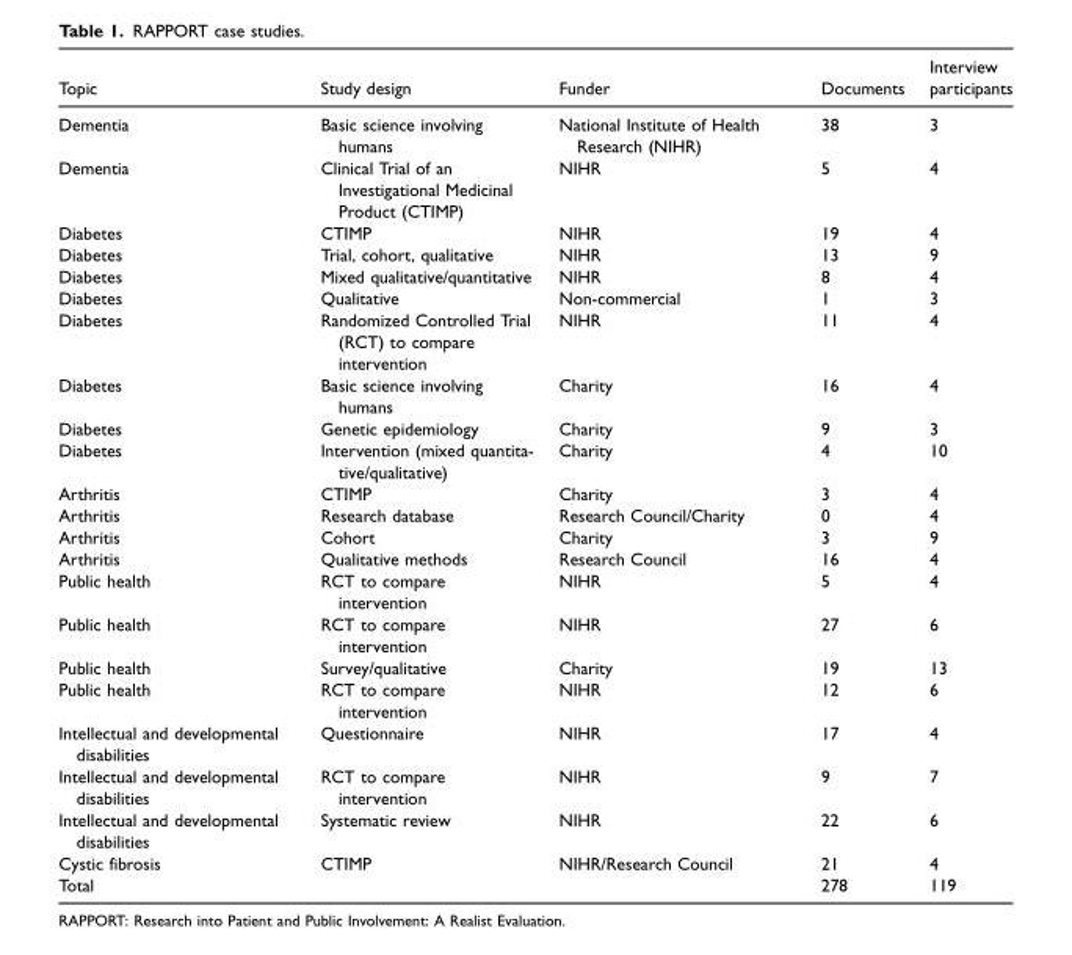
<table><thead><tr><td>Topic</td><td>Study design</td><td>Funder</td><td>Documents</td><td>Interview participants</td></tr></thead><tbody><tr><td>Dementia</td><td>Basic science involving humans</td><td>National Institute of Health Research (NIHR)</td><td>38</td><td>3</td></tr><tr><td>Dementia</td><td>Clinical Trial of an Investigational Medicinal Product (CTIMP)</td><td>NIHR</td><td>5</td><td>4</td></tr><tr><td>Diabetes</td><td>CTIMP</td><td>NIHR</td><td>19</td><td>4</td></tr><tr><td>Diabetes</td><td>Trial, cohort, qualitative</td><td>NIHR</td><td>13</td><td>9</td></tr><tr><td>Diabetes</td><td>Mixed qualitative/quantitative</td><td>NIHR</td><td>8</td><td>4</td></tr><tr><td>Diabetes</td><td>Qualitative</td><td>Non-commercial</td><td>1</td><td>3</td></tr><tr><td>Diabetes</td><td>Randomized Controlled Trial (RCT) to compare intervention</td><td>NIHR</td><td>11</td><td>4</td></tr><tr><td>Diabetes</td><td>Basic science involving humans</td><td>Charity</td><td>16</td><td>4</td></tr><tr><td>Diabetes</td><td>Genetic epidemiology</td><td>Charity</td><td>9</td><td>3</td></tr><tr><td>Diabetes</td><td>Intervention (mixed quantita- tive/qualitative)</td><td>Charity</td><td>4</td><td>10</td></tr><tr><td>Arthritis</td><td>CTIMP</td><td>Charity</td><td>3</td><td>4</td></tr><tr><td>Arthritis</td><td>Research database</td><td>Research Council/Charity</td><td>0</td><td>4</td></tr><tr><td>Arthritis</td><td>Cohort</td><td>Charity</td><td>3</td><td>9</td></tr><tr><td>Arthritis</td><td>Qualitative methods</td><td>Research Council</td><td>16</td><td>4</td></tr><tr><td>Public health</td><td>RCT to compare intervention</td><td>NIHR</td><td>5</td><td>4</td></tr><tr><td>Public health</td><td>RCT to compare intervention</td><td>NIHR</td><td>27</td><td>6</td></tr><tr><td>Public health</td><td>Survey/qualitative</td><td>Charity</td><td>19</td><td>13</td></tr><tr><td>Public health</td><td>RCT to compare intervention</td><td>NIHR</td><td>12</td><td>6</td></tr><tr><td>Intellectual and developmental disabilities</td><td>Questionnaire</td><td>NIHR</td><td>17</td><td>4</td></tr><tr><td>Intellectual and developmental disabilities</td><td>RCT to compare intervention</td><td>NIHR</td><td>9</td><td>7</td></tr><tr><td>Intellectual and developmental disabilities</td><td>Systematic review</td><td>NIHR</td><td>22</td><td>6</td></tr><tr><td>Cystic fibrosis</td><td>CTIMP</td><td>NIHR/Research Council</td><td>21</td><td>4</td></tr><tr><td>Total</td><td></td><td></td><td>278</td><td>119</td></tr></tbody></table>